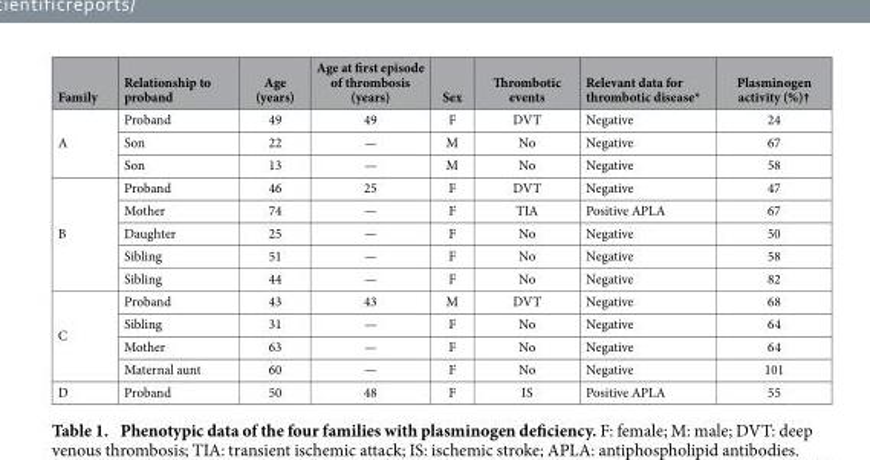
<table><thead><tr><td>Family</td><td>Relationship to proband</td><td>Age (years)</td><td>Age at first episode of thrombosis (years)</td><td>Sex</td><td>Thrombotic events</td><td>Relevant data for thrombotic disease*</td><td>Plasminogen activity (%)†</td></tr></thead><tbody><tr><td rowspan="3">A</td><td>Proband</td><td>49</td><td>49</td><td>F</td><td>DVT</td><td>Negative</td><td>24</td></tr><tr><td>Son</td><td>22</td><td>—</td><td>M</td><td>No</td><td>Negative</td><td>67</td></tr><tr><td>Son</td><td>13</td><td>—</td><td>M</td><td>No</td><td>Negative</td><td>58</td></tr><tr><td rowspan="5">B</td><td>Proband</td><td>46</td><td>25</td><td>F</td><td>DVT</td><td>Negative</td><td>47</td></tr><tr><td>Mother</td><td>74</td><td>—</td><td>F</td><td>TIA</td><td>Positive APLA</td><td>67</td></tr><tr><td>Daughter</td><td>25</td><td>—</td><td>F</td><td>No</td><td>Negative</td><td>50</td></tr><tr><td>Sibling</td><td>51</td><td>—</td><td>F</td><td>No</td><td>Negative</td><td>58</td></tr><tr><td>Sibling</td><td>44</td><td>—</td><td>F</td><td>No</td><td>Negative</td><td>82</td></tr><tr><td rowspan="4">C</td><td>Proband</td><td>43</td><td>43</td><td>M</td><td>DVT</td><td>Negative</td><td>68</td></tr><tr><td>Sibling</td><td>31</td><td>—</td><td>F</td><td>No</td><td>Negative</td><td>64</td></tr><tr><td>Mother</td><td>63</td><td>—</td><td>F</td><td>No</td><td>Negative</td><td>64</td></tr><tr><td>Maternal aunt</td><td>60</td><td>—</td><td>F</td><td>No</td><td>Negative</td><td>101</td></tr><tr><td>D</td><td>Proband</td><td>50</td><td>48</td><td>F</td><td>IS</td><td>Positive APLA</td><td>55</td></tr></tbody></table>